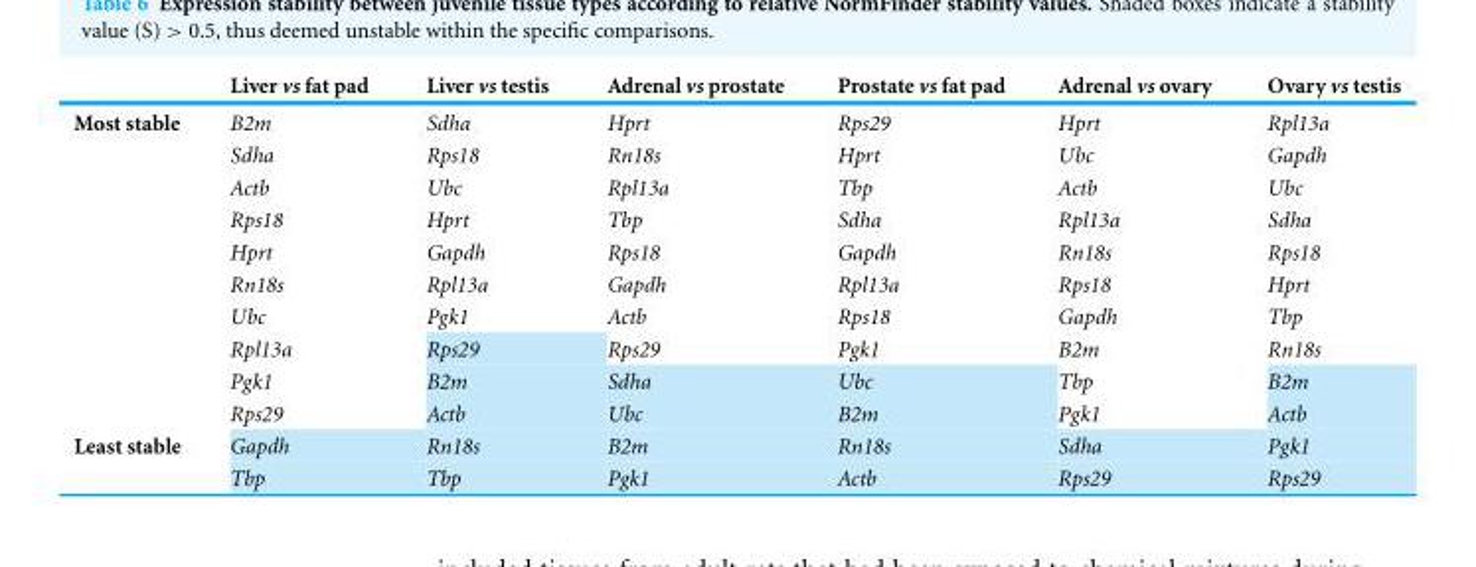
<table><thead><tr><td></td><td>Liver vs fat pad</td><td>Liver vs testis</td><td>Adrenal vs prostate</td><td>Prostate vs fat pad</td><td>Adrenal vs ovary</td><td>Ovary vs testis</td></tr></thead><tbody><tr><td rowspan="10">Most stable</td><td>B2m</td><td>Sdha</td><td>Hprt</td><td>Rps29</td><td>Hprt</td><td>Rpl13a</td></tr><tr><td>Sdha</td><td>Rps18</td><td>Rn18s</td><td>Hprt</td><td>Ubc</td><td>Gapdh</td></tr><tr><td>Actb</td><td>Ubc</td><td>Rpl13a</td><td>Tbp</td><td>Actb</td><td>Ubc</td></tr><tr><td>Rps18</td><td>Hprt</td><td>Tbp</td><td>Sdha</td><td>Rpl13a</td><td>Sdha</td></tr><tr><td>Hprt</td><td>Gapdh</td><td>Rps18</td><td>Gapdh</td><td>Rn18s</td><td>Rps18</td></tr><tr><td>Rn18s</td><td>Rpl13a</td><td>Gapdh</td><td>Rpl13a</td><td>Rps18</td><td>Hprt</td></tr><tr><td>Ubc</td><td>Pgk1</td><td>Actb</td><td>Rps18</td><td>Gapdh</td><td>Tbp</td></tr><tr><td>Rpl13a</td><td>Rps29</td><td>Rps29</td><td>Pgk1</td><td>B2m</td><td>Rn18s</td></tr><tr><td>Pgk1</td><td>B2m</td><td>Sdha</td><td>Ubc</td><td>Tbp</td><td>B2m</td></tr><tr><td>Rps29</td><td>Actb</td><td>Ubc</td><td>B2m</td><td>Pgk1</td><td>Actb</td></tr><tr><td rowspan="2">Least stable</td><td>Gapdh</td><td>Rn18s</td><td>B2m</td><td>Rn18s</td><td>Sdha</td><td>Pgk1</td></tr><tr><td>Tbp</td><td>Tbp</td><td>Pgk1</td><td>Actb</td><td>Rps29</td><td>Rps29</td></tr></tbody></table>